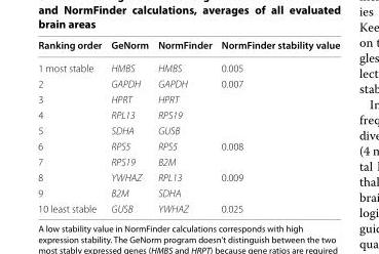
<table><thead><tr><td>Ranking order</td><td>GeNorm</td><td>NormFinder</td><td>NormFinder stability value</td></tr></thead><tbody><tr><td>1 most stable</td><td>HMBS</td><td>HMBS</td><td>0.005</td></tr><tr><td>2</td><td>GAPDH</td><td>GAPDH</td><td rowspan="4">0.007</td></tr><tr><td>3</td><td>HPRT</td><td>HPRT</td></tr><tr><td>4</td><td>RPL13</td><td>RPS19</td></tr><tr><td>5</td><td>SDHA</td><td>GUSB</td></tr><tr><td>6</td><td>RPS5</td><td>RPS5</td><td rowspan="2">0.008</td></tr><tr><td>7</td><td>RPS19</td><td>B2M</td></tr><tr><td>8</td><td>YWHAZ</td><td>RPL13</td><td rowspan="2">0.009</td></tr><tr><td>9</td><td>B2M</td><td>SDHA</td></tr><tr><td>10 least stable</td><td>GUSB</td><td>YWHAZ</td><td>0.025</td></tr></tbody></table>